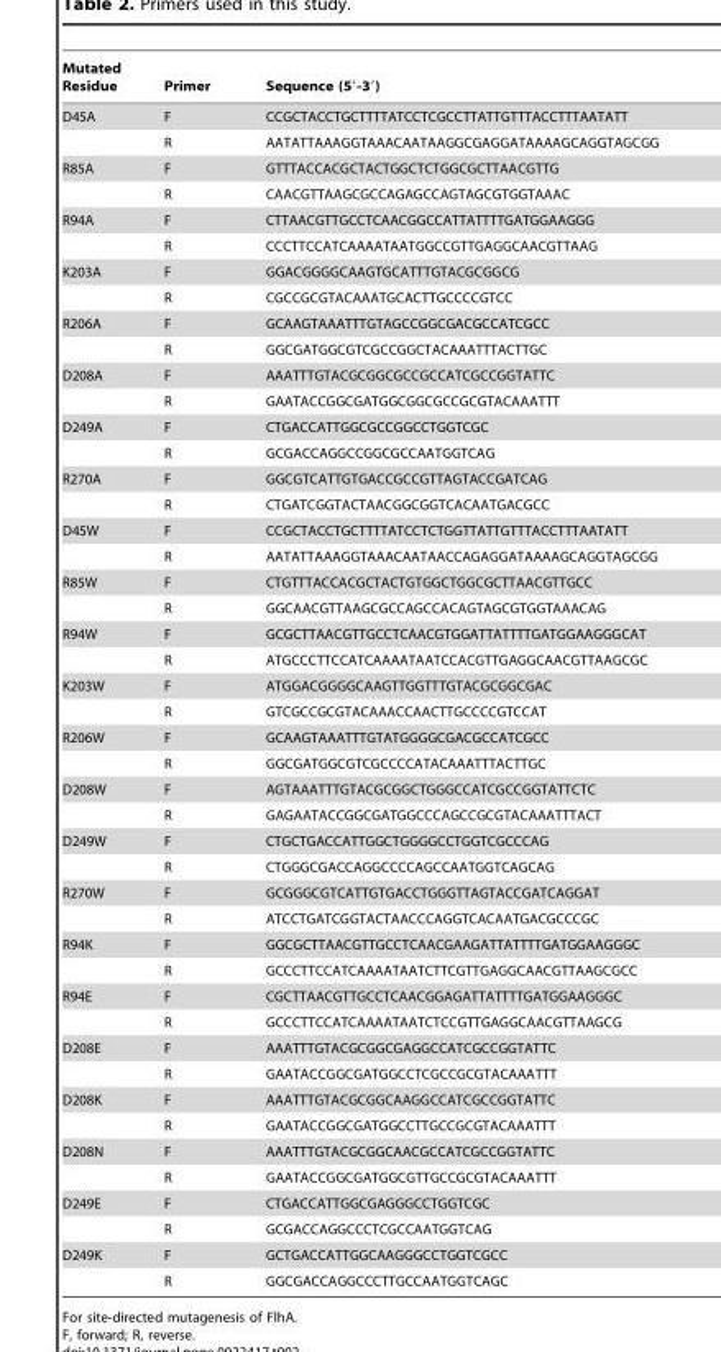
<table><thead><tr><td>Mutated Residue</td><td>Primer</td><td>Sequence (5′-3′)</td></tr></thead><tbody><tr><td rowspan="2">D45A</td><td>F</td><td>CCGCTACCTGCTTTTATCCTCGCCTTATTGTTTACCTTTAATATT</td></tr><tr><td>R</td><td>AATATTAAAGGTAAACAATAAGGCGAGGATAAAAGCAGGTAGCGG</td></tr><tr><td rowspan="2">R85A</td><td>F</td><td>GTTTACCACGCTACTGGCTCTGGCGCTTAACGTTG</td></tr><tr><td>R</td><td>CAACGTTAAGCGCCAGAGCCAGTAGCGTGGTAAAC</td></tr><tr><td rowspan="2">R94A</td><td>F</td><td>CTTAACGTTGCCTCAACGGCCATTATTTTGATGGAAGGG</td></tr><tr><td>R</td><td>CCCTTCCATCAAAATAATGGCCGTTGAGGCAACGTTAAG</td></tr><tr><td rowspan="2">K203A</td><td>F</td><td>GGACGGGGCAAGTGCATTTGTACGCGGCG</td></tr><tr><td>R</td><td>CGCCGCGTACAAATGCACTTGCCCCGTCC</td></tr><tr><td rowspan="2">R206A</td><td>F</td><td>GCAAGTAAATTTGTAGCCGGCGACGCCATCGCC</td></tr><tr><td>R</td><td>GGCGATGGCGTCGCCGGCTACAAATTTACTTGC</td></tr><tr><td rowspan="2">D208A</td><td>F</td><td>AAATTTGTACGCGGCGCCGCCATCGCCGGTATTC</td></tr><tr><td>R</td><td>GAATACCGGCGATGGCGGCGCCGCGTACAAATTT</td></tr><tr><td rowspan="2">D249A</td><td>F</td><td>CTGACCATTGGCGCCGGCCTGGTCGC</td></tr><tr><td>R</td><td>GCGACCAGGCCGGCGCCAATGGTCAG</td></tr><tr><td rowspan="2">R270A</td><td>F</td><td>GGCGTCATTGTGACCGCCGTTAGTACCGATCAG</td></tr><tr><td>R</td><td>CTGATCGGTACTAACGGCGGTCACAATGACGCC</td></tr><tr><td rowspan="2">D45W</td><td>F</td><td>CCGCTACCTGCTTTTATCCTCTGGTTATTGTTTACCTTTAATATT</td></tr><tr><td>R</td><td>AATATTAAAGGTAAACAATAACCAGAGGATAAAAGCAGGTAGCGG</td></tr><tr><td rowspan="2">R85W</td><td>F</td><td>CTGTTTACCACGCTACTGTGGCTGGCGCTTAACGTTGCC</td></tr><tr><td>R</td><td>GGCAACGTTAAGCGCCAGCCACAGTAGCGTGGTAAACAG</td></tr><tr><td rowspan="2">R94W</td><td>F</td><td>GCGCTTAACGTTGCCTCAACGTGGATTATTTTGATGGAAGGGCAT</td></tr><tr><td>R</td><td>ATGCCCTTCCATCAAAATAATCCACGTTGAGGCAACGTTAAGCGC</td></tr><tr><td rowspan="2">K203W</td><td>F</td><td>ATGGACGGGGCAAGTTGGTTTGTACGCGGCGAC</td></tr><tr><td>R</td><td>GTCGCCGCGTACAAACCAACTTGCCCCGTCCAT</td></tr><tr><td rowspan="2">R206W</td><td>F</td><td>GCAAGTAAATTTGTATGGGGCGACGCCATCGCC</td></tr><tr><td>R</td><td>GGCGATGGCGTCGCCCCATACAAATTTACTTGC</td></tr><tr><td rowspan="2">D208W</td><td>F</td><td>AGTAAATTTGTACGCGGCTGGGCCATCGCCGGTATTCTC</td></tr><tr><td>R</td><td>GAGAATACCGGCGATGGCCCAGCCGCGTACAAATTTACT</td></tr><tr><td rowspan="2">D249W</td><td>F</td><td>CTGCTGACCATTGGCTGGGGCCTGGTCGCCCAG</td></tr><tr><td>R</td><td>CTGGGCGACCAGGCCCCAGCCAATGGTCAGCAG</td></tr><tr><td rowspan="2">R270W</td><td>F</td><td>GCGGGCGTCATTGTGACCTGGGTTAGTACCGATCAGGAT</td></tr><tr><td>R</td><td>ATCCTGATCGGTACTAACCCAGGTCACAATGACGCCCGC</td></tr><tr><td rowspan="2">R94K</td><td>F</td><td>GGCGCTTAACGTTGCCTCAACGAAGATTATTTTGATGGAAGGGC</td></tr><tr><td>R</td><td>GCCCTTCCATCAAAATAATCTTCGTTGAGGCAACGTTAAGCGCC</td></tr><tr><td rowspan="2">R94E</td><td>F</td><td>CGCTTAACGTTGCCTCAACGGAGATTATTTTGATGGAAGGGC</td></tr><tr><td>R</td><td>GCCCTTCCATCAAAATAATCTCCGTTGAGGCAACGTTAAGCG</td></tr><tr><td rowspan="2">D208E</td><td>F</td><td>AAATTTGTACGCGGCGAGGCCATCGCCGGTATTC</td></tr><tr><td>R</td><td>GAATACCGGCGATGGCCTCGCCGCGTACAAATTT</td></tr><tr><td rowspan="2">D208K</td><td>F</td><td>AAATTTGTACGCGGCAAGGCCATCGCCGGTATTC</td></tr><tr><td>R</td><td>GAATACCGGCGATGGCCTTGCCGCGTACAAATTT</td></tr><tr><td rowspan="2">D208N</td><td>F</td><td>AAATTTGTACGCGGCAACGCCATCGCCGGTATTC</td></tr><tr><td>R</td><td>GAATACCGGCGATGGCGTTGCCGCGTACAAATTT</td></tr><tr><td rowspan="2">D249E</td><td>F</td><td>CTGACCATTGGCGAGGGCCTGGTCGC</td></tr><tr><td>R</td><td>GCGACCAGGCCCTCGCCAATGGTCAG</td></tr><tr><td rowspan="2">D249K</td><td>F</td><td>GCTGACCATTGGCAAGGGCCTGGTCGCC</td></tr><tr><td>R</td><td>GGCGACCAGGCCCTTGCCAATGGTCAGC</td></tr></tbody></table>